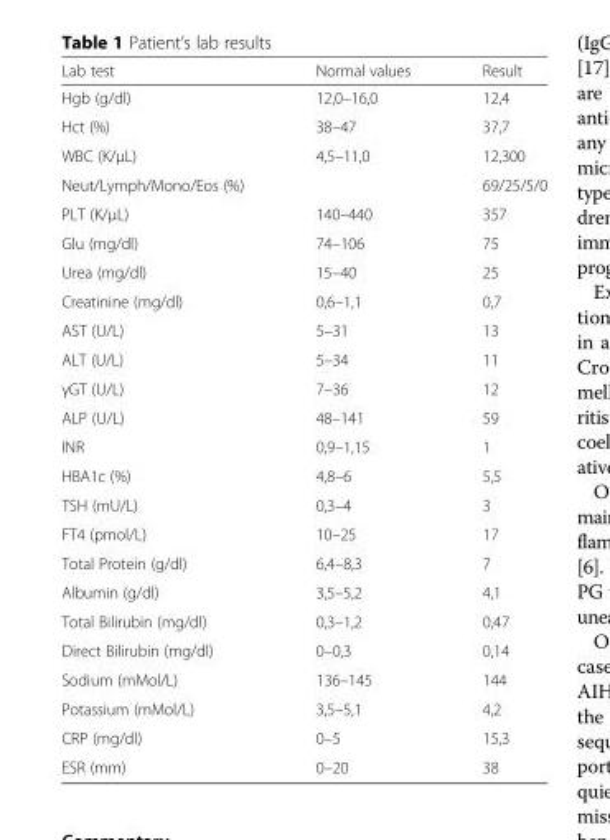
<table><thead><tr><td>Lab test</td><td>Normal values</td><td>Result</td></tr></thead><tbody><tr><td>Hgb (g/dl)</td><td>12,0–16,0</td><td>12,4</td></tr><tr><td>Hct (%)</td><td>38–47</td><td>37,7</td></tr><tr><td>WBC (K/μL)</td><td>4,5–11,0</td><td>12,300</td></tr><tr><td>Neut/Lymph/Mono/Eos (%)</td><td></td><td>69/25/5/0</td></tr><tr><td>PLT (K/μL)</td><td>140–440</td><td>357</td></tr><tr><td>Glu (mg/dl)</td><td>74–106</td><td>75</td></tr><tr><td>Urea (mg/dl)</td><td>15–40</td><td>25</td></tr><tr><td>Creatinine (mg/dl)</td><td>0,6–1,1</td><td>0,7</td></tr><tr><td>AST (U/L)</td><td>5–31</td><td>13</td></tr><tr><td>ALT (U/L)</td><td>5–34</td><td>11</td></tr><tr><td>γGT (U/L)</td><td>7–36</td><td>12</td></tr><tr><td>ALP (U/L)</td><td>48–141</td><td>59</td></tr><tr><td>INR</td><td>0,9–1,15</td><td>1</td></tr><tr><td>HBA1c (%)</td><td>4,8–6</td><td>5,5</td></tr><tr><td>TSH (mU/L)</td><td>0,3–4</td><td>3</td></tr><tr><td>FT4 (pmol/L)</td><td>10–25</td><td>17</td></tr><tr><td>Total Protein (g/dl)</td><td>6,4–8,3</td><td>7</td></tr><tr><td>Albumin (g/dl)</td><td>3,5–5,2</td><td>4,1</td></tr><tr><td>Total Bilirubin (mg/dl)</td><td>0,3–1,2</td><td>0,47</td></tr><tr><td>Direct Bilirubin (mg/dl)</td><td>0–0,3</td><td>0,14</td></tr><tr><td>Sodium (mMol/L)</td><td>136–145</td><td>144</td></tr><tr><td>Potassium (mMol/L)</td><td>3,5–5,1</td><td>4,2</td></tr><tr><td>CRP (mg/dl)</td><td>0–5</td><td>15,3</td></tr><tr><td>ESR (mm)</td><td>0–20</td><td>38</td></tr></tbody></table>